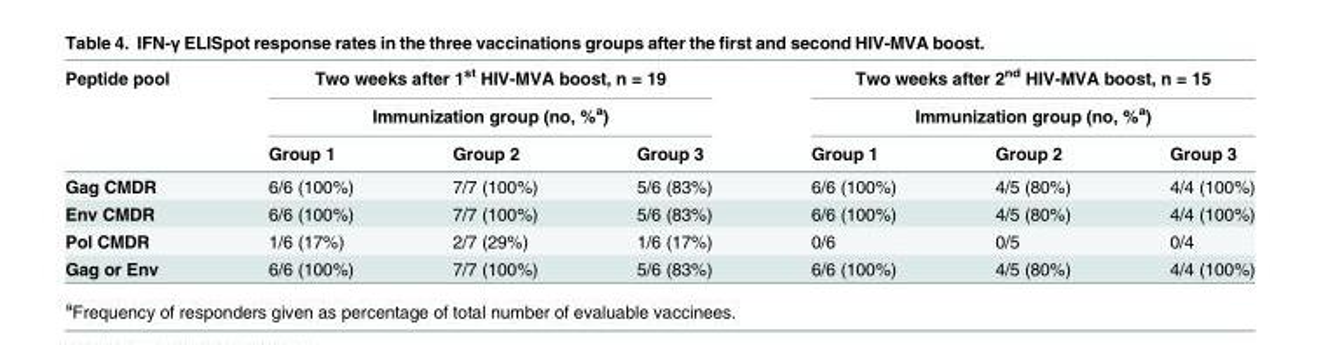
<table><thead><tr><td rowspan="3">Peptide pool</td><td rowspan="2" colspan="3">Two weeks after 1<sup>st</sup> HIV-MVA boost, n = 19 Immunization group (no, %<sup>a</sup>)</td><td rowspan="2" colspan="3">Two weeks after 2<sup>nd</sup> HIV-MVA boost, n = 15 Immunization group (no, %<sup>a</sup>)</td></tr><tr></tr><tr><td>Group 1</td><td>Group 2</td><td>Group 3</td><td>Group 1</td><td>Group 2</td><td>Group 3</td></tr></thead><tbody><tr><td>Gag CMDR</td><td>6/6 (100%)</td><td>7/7 (100%)</td><td>5/6 (83%)</td><td>6/6 (100%)</td><td>4/5 (80%)</td><td>4/4 (100%)</td></tr><tr><td>Env CMDR</td><td>6/6 (100%)</td><td>7/7 (100%)</td><td>5/6 (83%)</td><td>6/6 (100%)</td><td>4/5 (80%)</td><td>4/4 (100%)</td></tr><tr><td>Pol CMDR</td><td>1/6 (17%)</td><td>2/7 (29%)</td><td>1/6 (17%)</td><td>0/6</td><td>0/5</td><td>0/4</td></tr><tr><td>Gag or Env</td><td>6/6 (100%)</td><td>7/7 (100%)</td><td>5/6 (83%)</td><td>6/6 (100%)</td><td>4/5 (80%)</td><td>4/4 (100%)</td></tr></tbody></table>